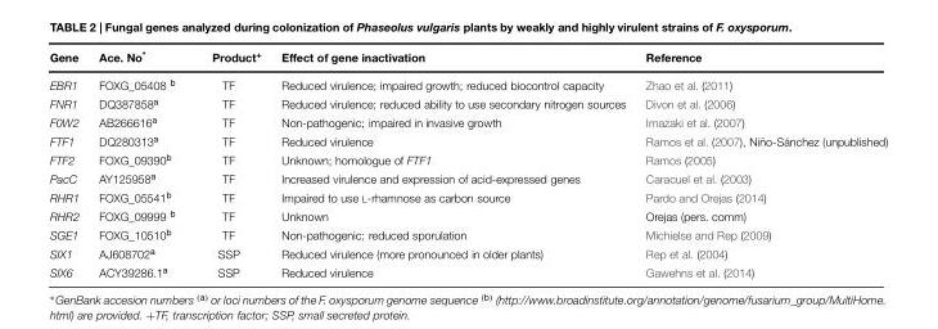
<table><thead><tr><td>Gene</td><td>Ace. No*</td><td>Product<sup>+</sup></td><td>Effect of gene inactivation</td><td>Reference</td></tr></thead><tbody><tr><td>EBR1</td><td>FOXG_05408 <sup>b</sup></td><td>TF</td><td>Reduced virulence; impaired growth; reduced biocontrol capacity</td><td>Zhao et al. (2011)</td></tr><tr><td>FNR1</td><td>DQ387858<sup>a</sup></td><td>TF</td><td>Reduced virulence; reduced ability to use secondary nitrogen sources</td><td>Divon et al. (2006)</td></tr><tr><td>F0W2</td><td>AB266616<sup>a</sup></td><td>TF</td><td>Non-pathogenic; impaired in invasive growth</td><td>Imazaki et al. (2007)</td></tr><tr><td>FTF1</td><td>DQ280313<sup>a</sup></td><td>TF</td><td>Reduced virulence</td><td>Ramos et al. (2007), Niño-Sánchez (unpublished)</td></tr><tr><td>FTF2</td><td>FOXG_09390<sup>b</sup></td><td>TF</td><td>Unknown; homologue of FTF1</td><td>Ramos (2005)</td></tr><tr><td>PacC</td><td>AY125958<sup>a</sup></td><td>TF</td><td>Increased virulence and expression of acid-expressed genes</td><td>Caracuel et al. (2003)</td></tr><tr><td>RHR1</td><td>FOXG_05541<sup>b</sup></td><td>TF</td><td>Impaired to use L-rhamnose as carbon source</td><td>Pardo and Orejas (2014)</td></tr><tr><td>RHR2</td><td>FOXG_09999 <sup>b</sup></td><td>TF</td><td>Unknown</td><td>Orejas (pers. comm)</td></tr><tr><td>SGE1</td><td>FOXG_10510<sup>b</sup></td><td>TF</td><td>Non-pathogenic; reduced sporulation</td><td>Michielse and Rep (2009)</td></tr><tr><td>SIX1</td><td>AJ608702<sup>a</sup></td><td>SSP</td><td>Reduced virulence (more pronounced in older plants)</td><td>Rep et al. (2004)</td></tr><tr><td>SIX6</td><td>ACY39286.1<sup>a</sup></td><td>SSP</td><td>Reduced virulence</td><td>Gawehns et al. (2014)</td></tr></tbody></table>